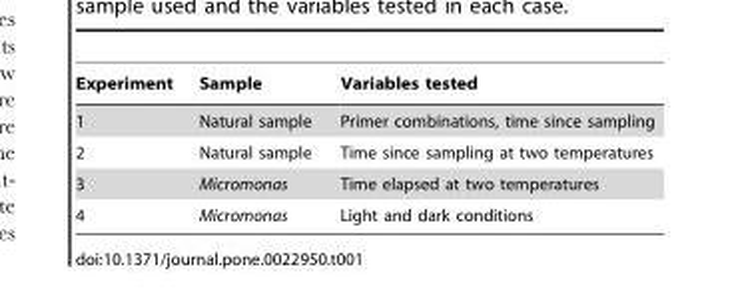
<table><thead><tr><td>Experiment</td><td>Sample</td><td>Variables tested</td></tr></thead><tbody><tr><td>1</td><td>Natural sample</td><td>Primer combinations, time since sampling</td></tr><tr><td>2</td><td>Natural sample</td><td>Time since sampling at two temperatures</td></tr><tr><td>3</td><td>Micromonas</td><td>Time elapsed at two temperatures</td></tr><tr><td>4</td><td>Micromonas</td><td>Light and dark conditions</td></tr></tbody></table>